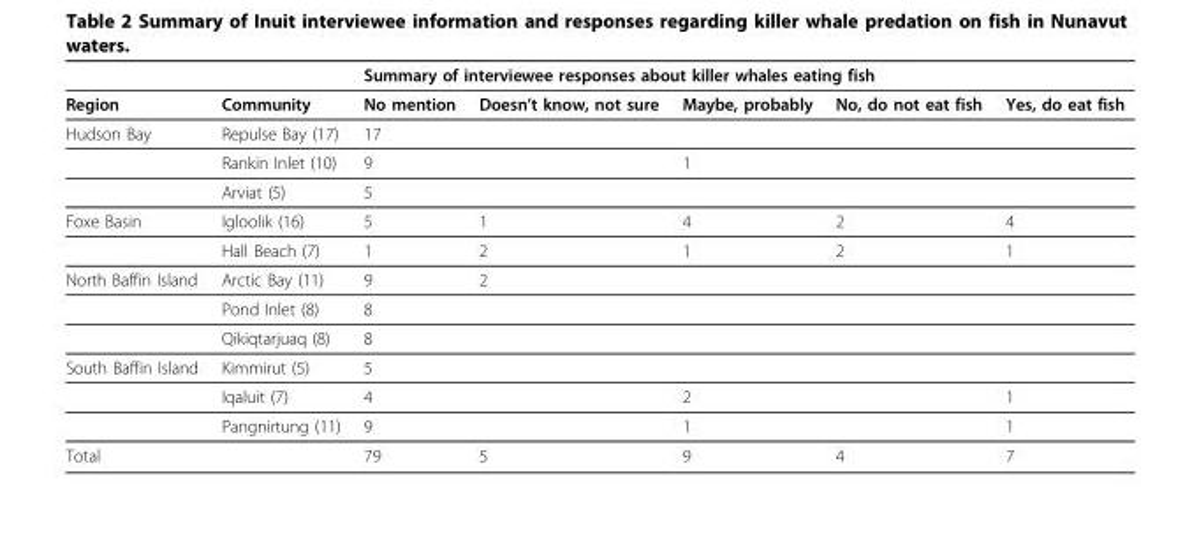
<table><thead><tr><td rowspan="2">Region</td><td rowspan="2">Community</td><td colspan="5">Summary of interviewee responses about killer whales eating fish</td></tr><tr><td>No mention</td><td>Doesn’t know, not sure</td><td>Maybe, probably</td><td>No, do not eat fish</td><td>Yes, do eat fish</td></tr></thead><tbody><tr><td rowspan="3">Hudson Bay</td><td>Repulse Bay (17)</td><td>17</td><td></td><td></td><td></td><td></td></tr><tr><td>Rankin Inlet (10)</td><td>9</td><td></td><td>1</td><td></td><td></td></tr><tr><td>Arviat (5)</td><td>5</td><td></td><td></td><td></td><td></td></tr><tr><td rowspan="2">Foxe Basin</td><td>Igloolik (16)</td><td>5</td><td>1</td><td>4</td><td>2</td><td>4</td></tr><tr><td>Hall Beach (7)</td><td>1</td><td>2</td><td>1</td><td>2</td><td>1</td></tr><tr><td rowspan="3">North Baffin Island</td><td>Arctic Bay (11)</td><td>9</td><td>2</td><td></td><td></td><td></td></tr><tr><td>Pond Inlet (8)</td><td>8</td><td></td><td></td><td></td><td></td></tr><tr><td>Qikiqtarjuaq (8)</td><td>8</td><td></td><td></td><td></td><td></td></tr><tr><td rowspan="3">South Baffin Island</td><td>Kimmirut (5)</td><td>5</td><td></td><td></td><td></td><td></td></tr><tr><td>Iqaluit (7)</td><td>4</td><td></td><td>2</td><td></td><td>1</td></tr><tr><td>Pangnirtung (11)</td><td>9</td><td></td><td>1</td><td></td><td>1</td></tr><tr><td>Total</td><td></td><td>79</td><td>5</td><td>9</td><td>4</td><td>7</td></tr></tbody></table>